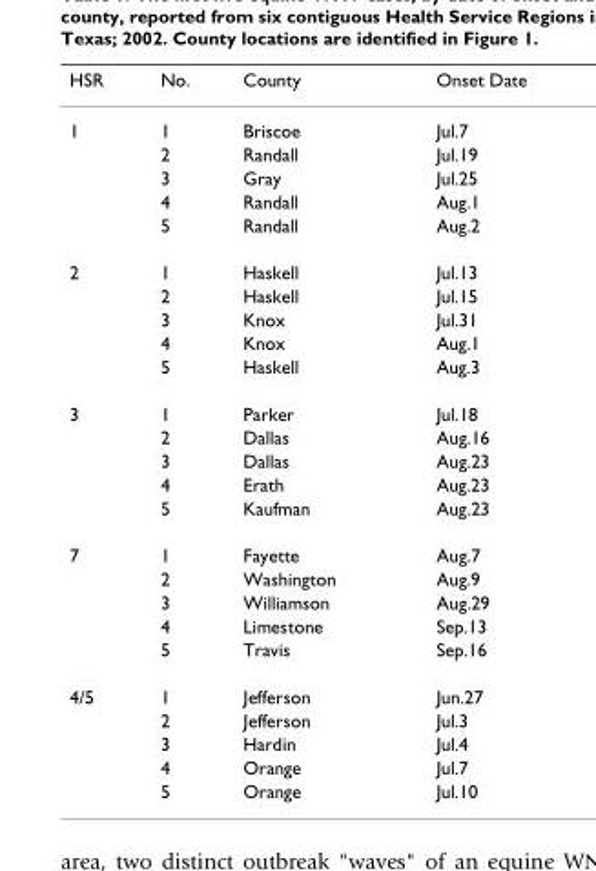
<table><thead><tr><td>HSR</td><td>No.</td><td>County</td><td>Onset Date</td></tr></thead><tbody><tr><td rowspan="5">1</td><td>1</td><td>Briscoe</td><td>Jul.7</td></tr><tr><td>2</td><td>Randall</td><td>Jul.19</td></tr><tr><td>3</td><td>Gray</td><td>Jul.25</td></tr><tr><td>4</td><td>Randall</td><td>Aug.1</td></tr><tr><td>5</td><td>Randall</td><td>Aug.2</td></tr><tr><td rowspan="5">2</td><td>1</td><td>Haskell</td><td>Jul.13</td></tr><tr><td>2</td><td>Haskell</td><td>Jul.15</td></tr><tr><td>3</td><td>Knox</td><td>Jul.31</td></tr><tr><td>4</td><td>Knox</td><td>Aug.1</td></tr><tr><td>5</td><td>Haskell</td><td>Aug.3</td></tr><tr><td rowspan="5">3</td><td>1</td><td>Parker</td><td>Jul.18</td></tr><tr><td>2</td><td>Dallas</td><td>Aug.16</td></tr><tr><td>3</td><td>Dallas</td><td>Aug.23</td></tr><tr><td>4</td><td>Erath</td><td>Aug.23</td></tr><tr><td>5</td><td>Kaufman</td><td>Aug.23</td></tr><tr><td rowspan="5">7</td><td>1</td><td>Fayette</td><td>Aug.7</td></tr><tr><td>2</td><td>Washington</td><td>Aug.9</td></tr><tr><td>3</td><td>Williamson</td><td>Aug.29</td></tr><tr><td>4</td><td>Limestone</td><td>Sep.13</td></tr><tr><td>5</td><td>Travis</td><td>Sep.16</td></tr><tr><td rowspan="5">4/5</td><td>1</td><td>Jefferson</td><td>Jun.27</td></tr><tr><td>2</td><td>Jefferson</td><td>Jul.3</td></tr><tr><td>3</td><td>Hardin</td><td>Jul.4</td></tr><tr><td>4</td><td>Orange</td><td>Jul.7</td></tr><tr><td>5</td><td>Orange</td><td>Jul.10</td></tr></tbody></table>